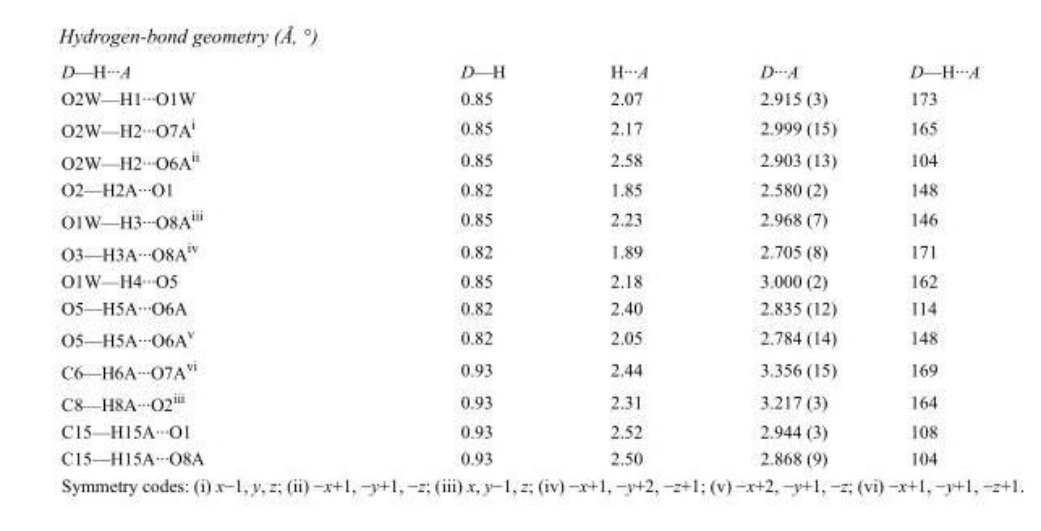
<table><tbody><tr><td>D—H···A</td><td>D—H</td><td>H···A</td><td>D···A</td><td>D—H···A</td></tr><tr><td>O2W—H1···O1W</td><td>0.85</td><td>2.07</td><td>2.915 (3)</td><td>173</td></tr><tr><td>O2W—H2···O7A<sup>i</sup></td><td>0.85</td><td>2.17</td><td>2.999 (15)</td><td>165</td></tr><tr><td>O2W—H2···O6A<sup>ii</sup></td><td>0.85</td><td>2.58</td><td>2.903 (13)</td><td>104</td></tr><tr><td>O2—H2A···O1</td><td>0.82</td><td>1.85</td><td>2.580 (2)</td><td>148</td></tr><tr><td>O1W—H3···O8A<sup>iii</sup></td><td>0.85</td><td>2.23</td><td>2.968 (7)</td><td>146</td></tr><tr><td>O3—H3A···O8A<sup>iv</sup></td><td>0.82</td><td>1.89</td><td>2.705 (8)</td><td>171</td></tr><tr><td>O1W—H4···O5</td><td>0.85</td><td>2.18</td><td>3.000 (2)</td><td>162</td></tr><tr><td>O5—H5A···O6A</td><td>0.82</td><td>2.40</td><td>2.835 (12)</td><td>114</td></tr><tr><td>O5—H5A···O6A<sup>v</sup></td><td>0.82</td><td>2.05</td><td>2.784 (14)</td><td>148</td></tr><tr><td>C6—H6A···O7A<sup>vi</sup></td><td>0.93</td><td>2.44</td><td>3.356 (15)</td><td>169</td></tr><tr><td>C8—H8A···O2<sup>iii</sup></td><td>0.93</td><td>2.31</td><td>3.217 (3)</td><td>164</td></tr><tr><td>C15—H15A···O1</td><td>0.93</td><td>2.52</td><td>2.944 (3)</td><td>108</td></tr><tr><td>C15—H15A···O8A</td><td>0.93</td><td>2.50</td><td>2.868 (9)</td><td>104</td></tr></tbody></table>